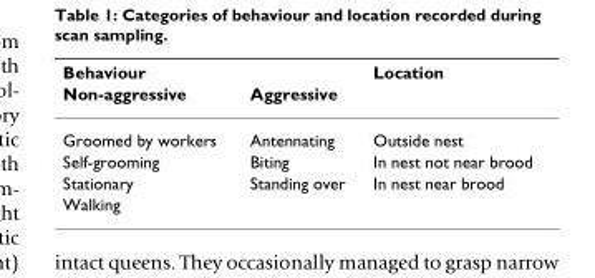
<table><thead><tr><td colspan="2">Behaviour</td><td rowspan="2">Location</td></tr><tr><td>Non-aggressive</td><td>Aggressive</td></tr></thead><tbody><tr><td>Groomed by workers</td><td>Antennating</td><td>Outside nest</td></tr><tr><td>Self-grooming</td><td>Biting</td><td>In nest not near brood</td></tr><tr><td>Stationary</td><td>Standing over</td><td>In nest near brood</td></tr><tr><td>Walking</td><td></td><td></td></tr></tbody></table>